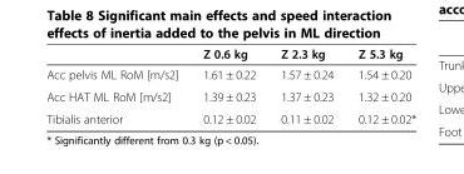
<table><thead><tr><td></td><td>Z 0.6 kg</td><td>Z 2.3 kg</td><td>Z 5.3 kg</td></tr></thead><tbody><tr><td>Acc pelvis ML RoM [m/s2]</td><td>1.61 ± 0.22</td><td>1.57 ± 0.24</td><td>1.54 ± 0.20</td></tr><tr><td>Acc HAT ML RoM [m/s2]</td><td>1.39 ± 0.23</td><td>1.37 ± 0.23</td><td>1.32 ± 0.20</td></tr><tr><td>Tibialis anterior</td><td>0.12 ± 0.02</td><td>0.11 ± 0.02</td><td>0.12 ± 0.02*</td></tr></tbody></table>